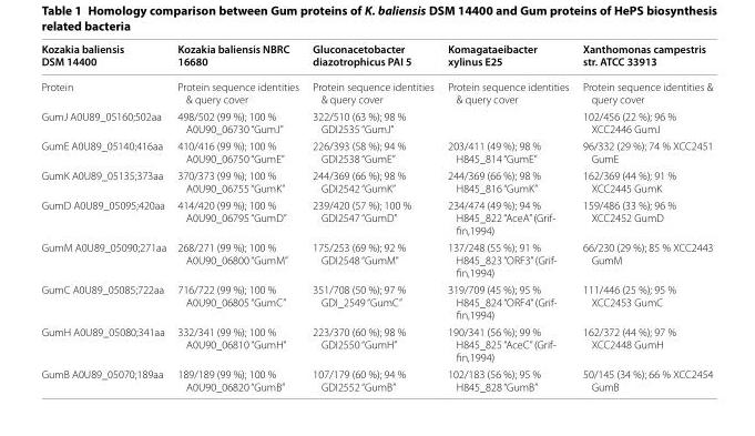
<table><thead><tr><td>Kozakia baliensis DSM 14400</td><td>Kozakia baliensis NBRC 16680</td><td>Gluconacetobacter diazotrophicus PAI 5</td><td>Komagataeibacter xylinus E25</td><td>Xanthomonas campestris str. ATCC 33913</td></tr></thead><tbody><tr><td>Protein</td><td>Protein sequence identities &amp; query cover</td><td>Protein sequence identities &amp; query cover</td><td>Protein sequence identities &amp; query cover</td><td>Protein sequence identities &amp; query cover</td></tr><tr><td>GumJ A0U89_05160;502aa</td><td>498/502 (99 %); 100 % A0U90_06730 “GumJ”</td><td>322/510 (63 %); 98 % GDI2535 “GumJ”</td><td></td><td>102/456 (22 %); 96 % XCC2446 GumJ</td></tr><tr><td>GumE A0U89_05140;416aa</td><td>410/416 (99 %); 100 % A0U90_06750 “GumE”</td><td>226/393 (58 %); 94 % GDI2538 “GumE”</td><td>203/411 (49 %); 98 % H845_814 “GumE”</td><td>96/332 (29 %); 74 % XCC2451 GumE</td></tr><tr><td>GumK A0U89_05135;373aa</td><td>370/373 (99 %); 100 % A0U90_06755 “GumK”</td><td>244/369 (66 %); 98 % GDI2542 “GumK”</td><td>244/369 (66 %); 98 % H845_816 “GumK”</td><td>162/369 (44 %); 91 % XCC2445 GumK</td></tr><tr><td>GumD A0U89_05095;420aa</td><td>414/420 (99 %); 100 % A0U90_06795 “GumD”</td><td>239/420 (57 %); 100 % GDI2547 “GumD”</td><td>234/474 (49 %); 94 % H845_822 “AceA” (Grif- fin,1994)</td><td>159/486 (33 %); 96 % XCC2452 GumD</td></tr><tr><td>GumM A0U89_05090;271aa</td><td>268/271 (99 %); 100 % A0U90_06800 “GumM”</td><td>175/253 (69 %); 92 % GDI2548 “GumM”</td><td>137/248 (55 %); 91 % H845_823 “ORF3” (Grif- fin,1994)</td><td>66/230 (29 %); 85 % XCC2443 GumM</td></tr><tr><td>GumC A0U89_05085;722aa</td><td>716/722 (99 %); 100 % A0U90_06805 “GumC”</td><td>351/708 (50 %); 97 % GDI_2549 “GumC”</td><td>319/709 (45 %); 95 % H845_824 “ORF4” (Grif- fin,1994)</td><td>111/446 (25 %); 95 % XCC2453 GumC</td></tr><tr><td>GumH A0U89_05080;341aa</td><td>332/341 (99 %); 100 % A0U90_06810 “GumH”</td><td>223/370 (60 %); 98 % GDI2550 “GumH”</td><td>190/341 (56 %); 99 % H845_825 “AceC” (Grif- fin,1994)</td><td>162/372 (44 %); 97 % XCC2448 GumH</td></tr><tr><td>GumB A0U89_05070;189aa</td><td>189/189 (99 %); 100 % A0U90_06820 “GumB”</td><td>107/179 (60 %); 94 % GDI2552 “GumB”</td><td>102/183 (56 %); 95 % H845_828 “GumB”</td><td>50/145 (34 %); 66 % XCC2454 GumB</td></tr></tbody></table>